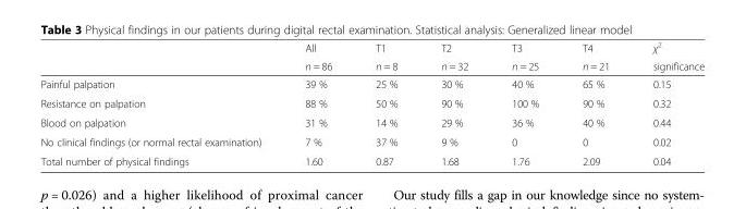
<table><thead><tr><td rowspan="2"></td><td rowspan="2">All n = 86</td><td rowspan="2">T1 n = 8</td><td rowspan="2">T2 n = 32</td><td rowspan="2">T3 n = 25</td><td rowspan="2">T4 n = 21</td><td rowspan="2">χ<sup>2</sup> significance</td></tr><tr></tr></thead><tbody><tr><td>Painful palpation</td><td>39 %</td><td>25 %</td><td>30 %</td><td>40 %</td><td>65 %</td><td>0.15</td></tr><tr><td>Resistance on palpation</td><td>88 %</td><td>50 %</td><td>90 %</td><td>100 %</td><td>90 %</td><td>0.32</td></tr><tr><td>Blood on palpation</td><td>31 %</td><td>14 %</td><td>29 %</td><td>36 %</td><td>40 %</td><td>0.44</td></tr><tr><td>No clinical findings (or normal rectal examination)</td><td>7 %</td><td>37 %</td><td>9 %</td><td>0</td><td>0</td><td>0.02</td></tr><tr><td>Total number of physical findings</td><td>1.60</td><td>0.87</td><td>1.68</td><td>1.76</td><td>2.09</td><td>0.04</td></tr></tbody></table>